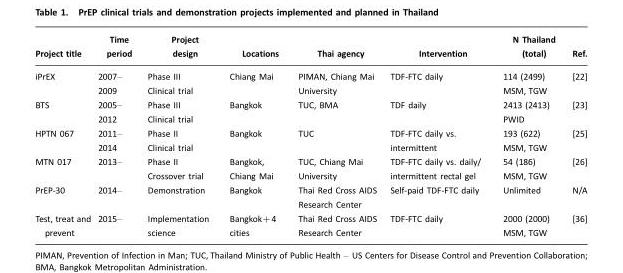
<table><thead><tr><td>Project title</td><td>Time period</td><td>Project design</td><td>Locations</td><td>Thai agency</td><td>Intervention</td><td>N Thailand (total)</td><td>Ref.</td></tr></thead><tbody><tr><td>iPrEX</td><td>2007– 2009</td><td>Phase III Clinical trial</td><td>Chiang Mai</td><td>PIMAN, Chiang Mai University</td><td>TDF-FTC daily</td><td>114 (2499) MSM, TGW</td><td>[22]</td></tr><tr><td>BTS</td><td>2005– 2012</td><td>Phase III Clinical trial</td><td>Bangkok</td><td>TUC, BMA</td><td>TDF daily</td><td>2413 (2413) PWID</td><td>[23]</td></tr><tr><td>HPTN 067</td><td>2011– 2014</td><td>Phase II Clinical trial</td><td>Bangkok</td><td>TUC</td><td>TDF-FTC daily vs. intermittent</td><td>193 (622) MSM, TGW</td><td>[25]</td></tr><tr><td>MTN 017</td><td>2013–</td><td>Phase II Crossover trial</td><td>Bangkok, Chiang Mai</td><td>TUC, Chiang Mai University</td><td>TDF-FTC daily vs. daily/ intermittent rectal gel</td><td>54 (186) MSM, TGW</td><td>[26]</td></tr><tr><td>PrEP-30</td><td>2014–</td><td>Demonstration</td><td>Bangkok</td><td>Thai Red Cross AIDS Research Center</td><td>Self-paid TDF-FTC daily</td><td>Unlimited</td><td>N/A</td></tr><tr><td>Test, treat and prevent</td><td>2015–</td><td>Implementation science</td><td>Bangkok+4 cities</td><td>Thai Red Cross AIDS Research Center</td><td>TDF-FTC daily</td><td>2000 (2000) MSM, TGW</td><td>[36]</td></tr></tbody></table>